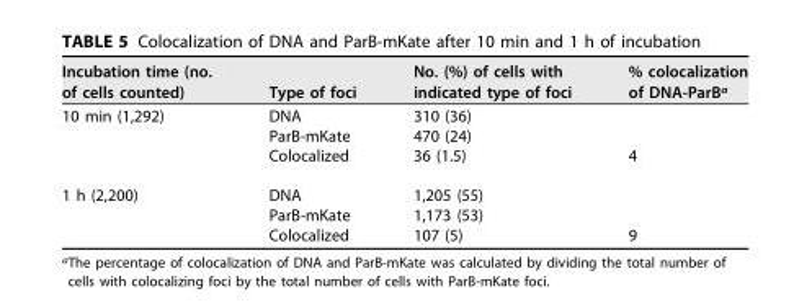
<table><thead><tr><td>Incubation time (no. of cells counted)</td><td>Type of foci</td><td>No. (%) of cells with indicated type of foci</td><td>% colocalization of DNA-ParB<sup>a</sup></td></tr></thead><tbody><tr><td rowspan="3">10 min (1,292)</td><td>DNA</td><td>310 (36)</td><td></td></tr><tr><td>ParB-mKate</td><td>470 (24)</td><td></td></tr><tr><td>Colocalized</td><td>36 (1.5)</td><td>4</td></tr><tr><td rowspan="3">1 h (2,200)</td><td>DNA</td><td>1,205 (55)</td><td></td></tr><tr><td>ParB-mKate</td><td>1,173 (53)</td><td></td></tr><tr><td>Colocalized</td><td>107 (5)</td><td>9</td></tr></tbody></table>